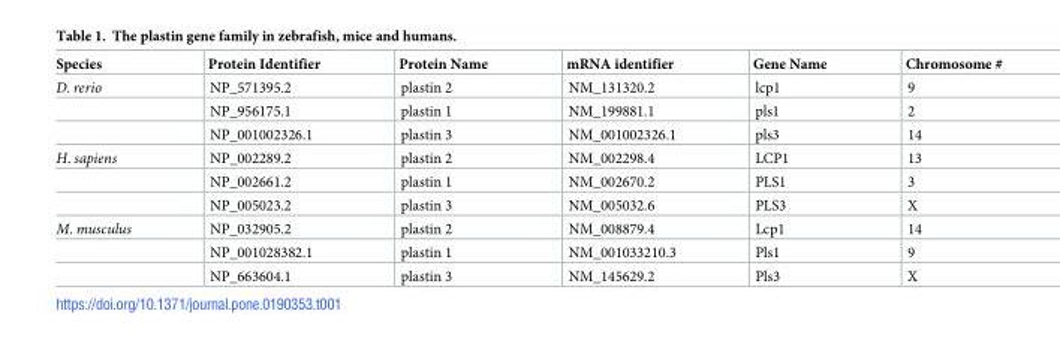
<table><thead><tr><td>Species</td><td>Protein Identifier</td><td>Protein Name</td><td>mRNA identifier</td><td>Gene Name</td><td>Chromosome #</td></tr></thead><tbody><tr><td rowspan="3">D. rerio</td><td>NP_571395.2</td><td>plastin 2</td><td>NM_131320.2</td><td>lcp1</td><td>9</td></tr><tr><td>NP_956175.1</td><td>plastin 1</td><td>NM_199881.1</td><td>pls1</td><td>2</td></tr><tr><td>NP_001002326.1</td><td>plastin 3</td><td>NM_001002326.1</td><td>pls3</td><td>14</td></tr><tr><td rowspan="3">H. sapiens</td><td>NP_002289.2</td><td>plastin 2</td><td>NM_002298.4</td><td>LCP1</td><td>13</td></tr><tr><td>NP_002661.2</td><td>plastin 1</td><td>NM_002670.2</td><td>PLS1</td><td>3</td></tr><tr><td>NP_005023.2</td><td>plastin 3</td><td>NM_005032.6</td><td>PLS3</td><td>X</td></tr><tr><td rowspan="3">M. musculus</td><td>NP_032905.2</td><td>plastin 2</td><td>NM_008879.4</td><td>Lcp1</td><td>14</td></tr><tr><td>NP_001028382.1</td><td>plastin 1</td><td>NM_001033210.3</td><td>Pls1</td><td>9</td></tr><tr><td>NP_663604.1</td><td>plastin 3</td><td>NM_145629.2</td><td>Pls3</td><td>X</td></tr></tbody></table>